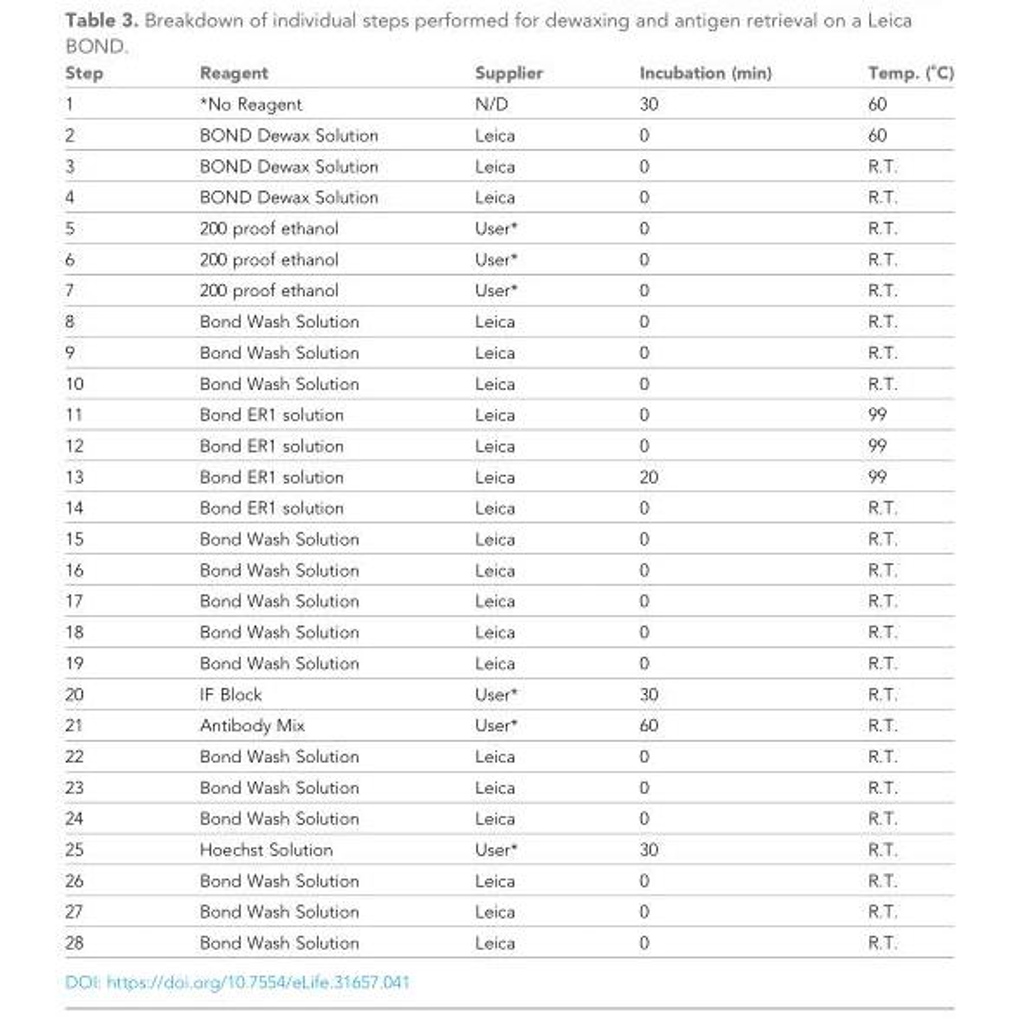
<table><thead><tr><td>Step</td><td>Reagent</td><td>Supplier</td><td>Incubation (min)</td><td>Temp. (˚C)</td></tr></thead><tbody><tr><td>1</td><td>*No Reagent</td><td>N/D</td><td>30</td><td>60</td></tr><tr><td>2</td><td>BOND Dewax Solution</td><td>Leica</td><td>0</td><td>60</td></tr><tr><td>3</td><td>BOND Dewax Solution</td><td>Leica</td><td>0</td><td>R.T.</td></tr><tr><td>4</td><td>BOND Dewax Solution</td><td>Leica</td><td>0</td><td>R.T.</td></tr><tr><td>5</td><td>200 proof ethanol</td><td>User*</td><td>0</td><td>R.T.</td></tr><tr><td>6</td><td>200 proof ethanol</td><td>User*</td><td>0</td><td>R.T.</td></tr><tr><td>7</td><td>200 proof ethanol</td><td>User*</td><td>0</td><td>R.T.</td></tr><tr><td>8</td><td>Bond Wash Solution</td><td>Leica</td><td>0</td><td>R.T.</td></tr><tr><td>9</td><td>Bond Wash Solution</td><td>Leica</td><td>0</td><td>R.T.</td></tr><tr><td>10</td><td>Bond Wash Solution</td><td>Leica</td><td>0</td><td>R.T.</td></tr><tr><td>11</td><td>Bond ER1 solution</td><td>Leica</td><td>0</td><td>99</td></tr><tr><td>12</td><td>Bond ER1 solution</td><td>Leica</td><td>0</td><td>99</td></tr><tr><td>13</td><td>Bond ER1 solution</td><td>Leica</td><td>20</td><td>99</td></tr><tr><td>14</td><td>Bond ER1 solution</td><td>Leica</td><td>0</td><td>R.T.</td></tr><tr><td>15</td><td>Bond Wash Solution</td><td>Leica</td><td>0</td><td>R.T.</td></tr><tr><td>16</td><td>Bond Wash Solution</td><td>Leica</td><td>0</td><td>R.T.</td></tr><tr><td>17</td><td>Bond Wash Solution</td><td>Leica</td><td>0</td><td>R.T.</td></tr><tr><td>18</td><td>Bond Wash Solution</td><td>Leica</td><td>0</td><td>R.T.</td></tr><tr><td>19</td><td>Bond Wash Solution</td><td>Leica</td><td>0</td><td>R.T.</td></tr><tr><td>20</td><td>IF Block</td><td>User*</td><td>30</td><td>R.T.</td></tr><tr><td>21</td><td>Antibody Mix</td><td>User*</td><td>60</td><td>R.T.</td></tr><tr><td>22</td><td>Bond Wash Solution</td><td>Leica</td><td>0</td><td>R.T.</td></tr><tr><td>23</td><td>Bond Wash Solution</td><td>Leica</td><td>0</td><td>R.T.</td></tr><tr><td>24</td><td>Bond Wash Solution</td><td>Leica</td><td>0</td><td>R.T.</td></tr><tr><td>25</td><td>Hoechst Solution</td><td>User*</td><td>30</td><td>R.T.</td></tr><tr><td>26</td><td>Bond Wash Solution</td><td>Leica</td><td>0</td><td>R.T.</td></tr><tr><td>27</td><td>Bond Wash Solution</td><td>Leica</td><td>0</td><td>R.T.</td></tr><tr><td>28</td><td>Bond Wash Solution</td><td>Leica</td><td>0</td><td>R.T.</td></tr></tbody></table>